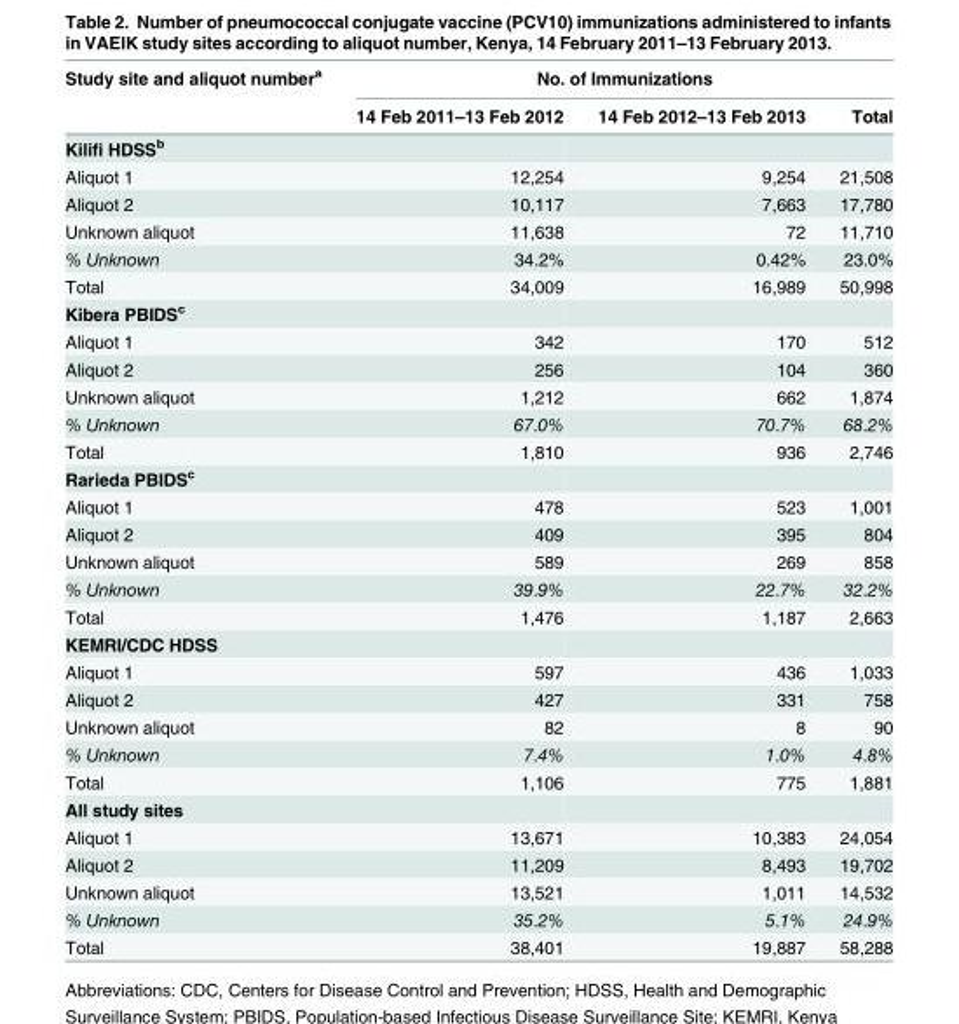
<table><thead><tr><td rowspan="2">Study site and aliquot number<sup>a</sup></td><td colspan="3">No. of Immunizations</td></tr><tr><td>14 Feb 2011–13 Feb 2012</td><td>14 Feb 2012–13 Feb 2013</td><td>Total</td></tr></thead><tbody><tr><td colspan="4">Kilifi HDSS<sup>b</sup></td></tr><tr><td>Aliquot 1</td><td>12,254</td><td>9,254</td><td>21,508</td></tr><tr><td>Aliquot 2</td><td>10,117</td><td>7,663</td><td>17,780</td></tr><tr><td>Unknown aliquot</td><td>11,638</td><td>72</td><td>11,710</td></tr><tr><td>% Unknown</td><td>34.2%</td><td>0.42%</td><td>23.0%</td></tr><tr><td>Total</td><td>34,009</td><td>16,989</td><td>50,998</td></tr><tr><td colspan="4">Kibera PBIDS<sup>c</sup></td></tr><tr><td>Aliquot 1</td><td>342</td><td>170</td><td>512</td></tr><tr><td>Aliquot 2</td><td>256</td><td>104</td><td>360</td></tr><tr><td>Unknown aliquot</td><td>1,212</td><td>662</td><td>1,874</td></tr><tr><td>% Unknown</td><td>67.0%</td><td>70.7%</td><td>68.2%</td></tr><tr><td>Total</td><td>1,810</td><td>936</td><td>2,746</td></tr><tr><td colspan="4">Rarieda PBIDS<sup>c</sup></td></tr><tr><td>Aliquot 1</td><td>478</td><td>523</td><td>1,001</td></tr><tr><td>Aliquot 2</td><td>409</td><td>395</td><td>804</td></tr><tr><td>Unknown aliquot</td><td>589</td><td>269</td><td>858</td></tr><tr><td>% Unknown</td><td>39.9%</td><td>22.7%</td><td>32.2%</td></tr><tr><td>Total</td><td>1,476</td><td>1,187</td><td>2,663</td></tr><tr><td colspan="4">KEMRI/CDC HDSS</td></tr><tr><td>Aliquot 1</td><td>597</td><td>436</td><td>1,033</td></tr><tr><td>Aliquot 2</td><td>427</td><td>331</td><td>758</td></tr><tr><td>Unknown aliquot</td><td>82</td><td>8</td><td>90</td></tr><tr><td>% Unknown</td><td>7.4%</td><td>1.0%</td><td>4.8%</td></tr><tr><td>Total</td><td>1,106</td><td>775</td><td>1,881</td></tr><tr><td colspan="4">All study sites</td></tr><tr><td>Aliquot 1</td><td>13,671</td><td>10,383</td><td>24,054</td></tr><tr><td>Aliquot 2</td><td>11,209</td><td>8,493</td><td>19,702</td></tr><tr><td>Unknown aliquot</td><td>13,521</td><td>1,011</td><td>14,532</td></tr><tr><td>% Unknown</td><td>35.2%</td><td>5.1%</td><td>24.9%</td></tr><tr><td>Total</td><td>38,401</td><td>19,887</td><td>58,288</td></tr></tbody></table>